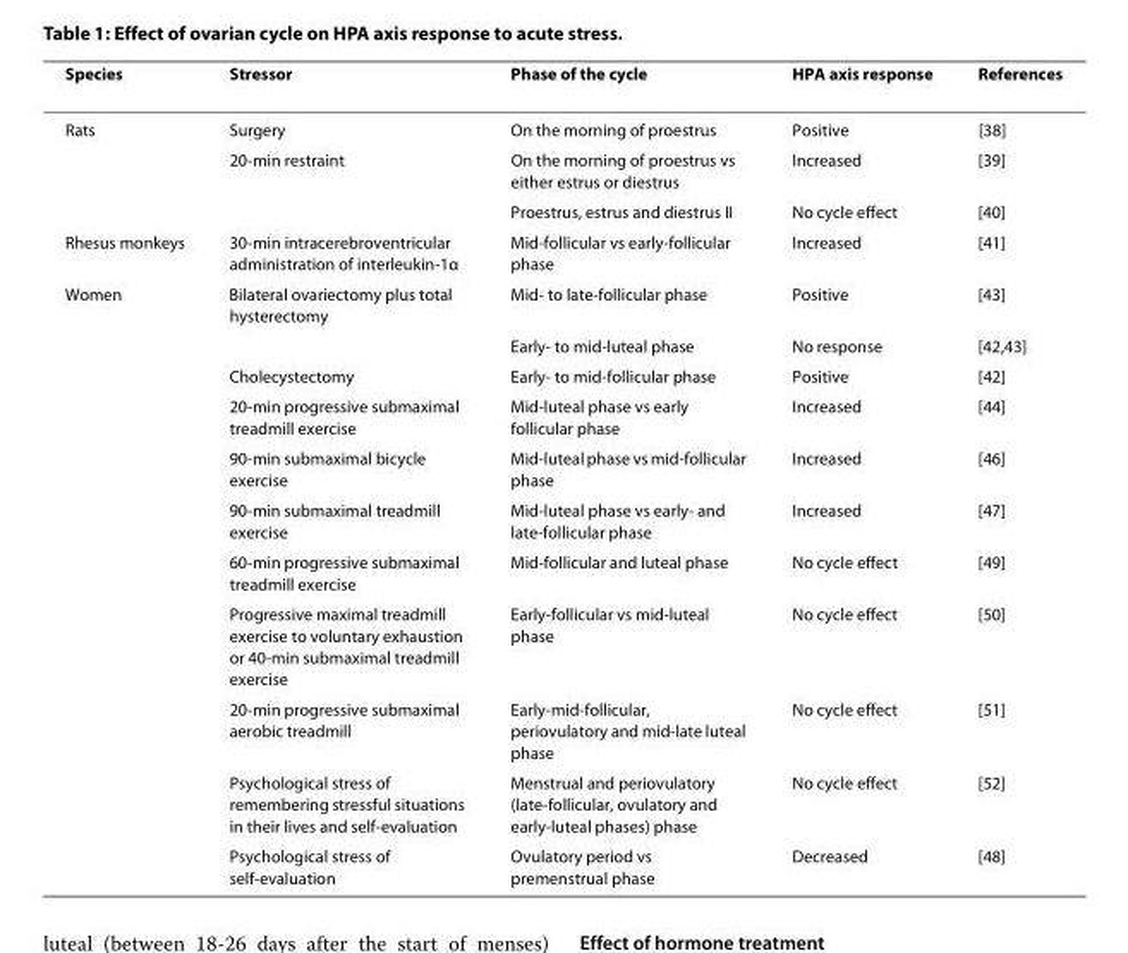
<table><thead><tr><td>Species</td><td>Stressor</td><td>Phase of the cycle</td><td>HPA axis response</td><td>References</td></tr></thead><tbody><tr><td rowspan="3">Rats</td><td>Surgery</td><td>On the morning of proestrus</td><td>Positive</td><td>[38]</td></tr><tr><td>20-min restraint</td><td>On the morning of proestrus vs either estrus or diestrus</td><td>Increased</td><td>[39]</td></tr><tr><td></td><td>Proestrus, estrus and diestrus II</td><td>No cycle effect</td><td>[40]</td></tr><tr><td>Rhesus monkeys</td><td>30-min intracerebroventricular administration of interleukin-1α</td><td>Mid-follicular vs early-follicular phase</td><td>Increased</td><td>[41]</td></tr><tr><td rowspan="11">Women</td><td>Bilateral ovariectomy plus total hysterectomy</td><td>Mid- to late-follicular phase</td><td>Positive</td><td>[43]</td></tr><tr><td></td><td>Early- to mid-luteal phase</td><td>No response</td><td>[42,43]</td></tr><tr><td>Cholecystectomy</td><td>Early- to mid-follicular phase</td><td>Positive</td><td>[42]</td></tr><tr><td>20-min progressive submaximal treadmill exercise</td><td>Mid-luteal phase vs early follicular phase</td><td>Increased</td><td>[44]</td></tr><tr><td>90-min submaximal bicycle exercise</td><td>Mid-luteal phase vs mid-follicular phase</td><td>Increased</td><td>[46]</td></tr><tr><td>90-min submaximal treadmill exercise</td><td>Mid-luteal phase vs early- and late-follicular phase</td><td>Increased</td><td>[47]</td></tr><tr><td>60-min progressive submaximal treadmill exercise</td><td>Mid-follicular and luteal phase</td><td>No cycle effect</td><td>[49]</td></tr><tr><td>Progressive maximal treadmill exercise to voluntary exhaustion or 40-min submaximal treadmill exercise</td><td>Early-follicular vs mid-luteal phase</td><td>No cycle effect</td><td>[50]</td></tr><tr><td>20-min progressive submaximal aerobic treadmill</td><td>Early-mid-follicular, periovulatory and mid-late luteal phase</td><td>No cycle effect</td><td>[51]</td></tr><tr><td>Psychological stress of remembering stressful situations in their lives and self-evaluation</td><td>Menstrual and periovulatory (late-follicular, ovulatory and early-luteal phases) phase</td><td>No cycle effect</td><td>[52]</td></tr><tr><td>Psychological stress of self-evaluation</td><td>Ovulatory period vs premenstrual phase</td><td>Decreased</td><td>[48]</td></tr></tbody></table>